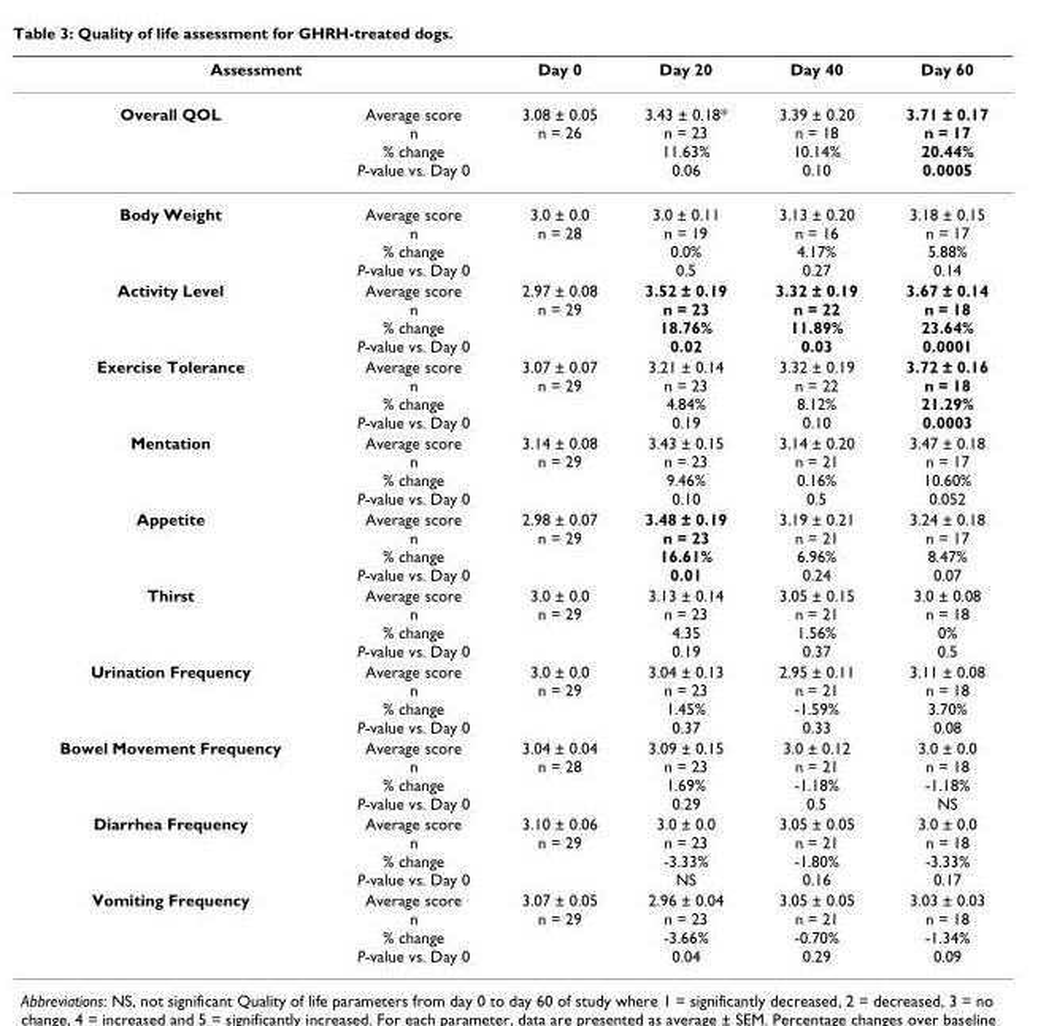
<table><thead><tr><td colspan="2">Assessment</td><td rowspan="2">Day 0 3.08 ± 0.05 n = 26</td><td rowspan="2">Day 20 3.43 ± 0.18* n = 23 11.63% 0.06</td><td rowspan="2">Day 40 3.39 ± 0.20 n = 18 10.14% 0.10</td><td rowspan="2">Day 60 3.71 ± 0.17 n = 17 20.44% 0.0005</td></tr><tr><td>Overall QOL</td><td>Average score n % change P-value vs. Day 0</td></tr></thead><tbody><tr><td>Body Weight</td><td>Average score n % change P-value vs. Day 0</td><td>3.0 ± 0.0 n = 28</td><td>3.0 ± 0.11 n = 19 0.0% 0.5</td><td>3.13 ± 0.20 n = 16 4.17% 0.27</td><td>3.18 ± 0.15 n = 17 5.88% 0.14</td></tr><tr><td>Activity Level</td><td>Average score n % change P-value vs. Day 0</td><td>2.97 ± 0.08 n = 29</td><td>3.52 ± 0.19 n = 23 18.76% 0.02</td><td>3.32 ± 0.19 n = 22 11.89% 0.03</td><td>3.67 ± 0.14 n = 18 23.64% 0.0001</td></tr><tr><td>Exercise Tolerance</td><td>Average score n % change P-value vs. Day 0</td><td>3.07 ± 0.07 n = 29</td><td>3.21 ± 0.14 n = 23 4.84% 0.19</td><td>3.32 ± 0.19 n = 22 8.12% 0.10</td><td>3.72 ± 0.16 n = 18 21.29% 0.0003</td></tr><tr><td>Mentation</td><td>Average score n % change P-value vs. Day 0</td><td>3.14 ± 0.08 n = 29</td><td>3.43 ± 0.15 n = 23 9.46% 0.10</td><td>3.14 ± 0.20 n = 21 0.16% 0.5</td><td>3.47 ± 0.18 n = 17 10.60% 0.052</td></tr><tr><td>Appetite</td><td>Average score n % change P-value vs. Day 0</td><td>2.98 ± 0.07 n = 29</td><td>3.48 ± 0.19 n = 23 16.61% 0.01</td><td>3.19 ± 0.21 n = 21 6.96% 0.24</td><td>3.24 ± 0.18 n = 17 8.47% 0.07</td></tr><tr><td>Thirst</td><td>Average score n % change P-value vs. Day 0</td><td>3.0 ± 0.0 n = 29</td><td>3.13 ± 0.14 n = 23 4.35 0.19</td><td>3.05 ± 0.15 n = 21 1.56% 0.37</td><td>3.0 ± 0.08 n = 18 0% 0.5</td></tr><tr><td>Urination Frequency</td><td>Average score n % change P-value vs. Day 0</td><td>3.0 ± 0.0 n = 29</td><td>3.04 ± 0.13 n = 23 1.45% 0.37</td><td>2.95 ± 0.11 n = 21 -1.59% 0.33</td><td>3.11 ± 0.08 n = 18 3.70% 0.08</td></tr><tr><td>Bowel Movement Frequency</td><td>Average score n % change P-value vs. Day 0</td><td>3.04 ± 0.04 n = 28</td><td>3.09 ± 0.15 n = 23 1.69% 0.29</td><td>3.0 ± 0.12 n = 21 -1.18% 0.5</td><td>3.0 ± 0.0 n = 18 -1.18% NS</td></tr><tr><td>Diarrhea Frequency</td><td>Average score n % change P-value vs. Day 0</td><td>3.10 ± 0.06 n = 29</td><td>3.0 ± 0.0 n = 23 -3.33% NS</td><td>3.05 ± 0.05 n = 21 -1.80% 0.16</td><td>3.0 ± 0.0 n = 18 -3.33% 0.17</td></tr><tr><td>Vomiting Frequency</td><td>Average score n % change P-value vs. Day 0</td><td>3.07 ± 0.05 n = 29</td><td>2.96 ± 0.04 n = 23 -3.66% 0.04</td><td>3.05 ± 0.05 n = 21 -0.70% 0.29</td><td>3.03 ± 0.03 n = 18 -1.34% 0.09</td></tr></tbody></table>